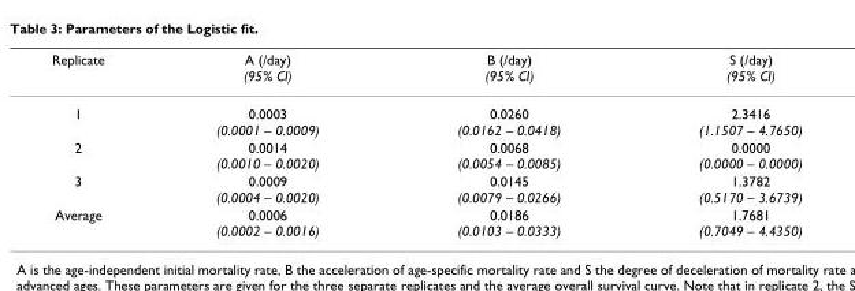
<table><thead><tr><td>Replicate</td><td>A (/day) (95% CI)</td><td>B (/day) (95% CI)</td><td>S (/day) (95% CI)</td></tr></thead><tbody><tr><td>1</td><td>0.0003 (0.0001 – 0.0009)</td><td>0.0260 (0.0162 – 0.0418)</td><td>2.3416 (1.1507 – 4.7650)</td></tr><tr><td>2</td><td>0.0014 (0.0010 – 0.0020)</td><td>0.0068 (0.0054 – 0.0085)</td><td>0.0000 (0.0000 – 0.0000)</td></tr><tr><td>3</td><td>0.0009 (0.0004 – 0.0020)</td><td>0.0145 (0.0079 – 0.0266)</td><td>1.3782 (0.5170 – 3.6739)</td></tr><tr><td>Average</td><td>0.0006 (0.0002 – 0.0016)</td><td>0.0186 (0.0103 – 0.0333)</td><td>1.7681 (0.7049 – 4.4350)</td></tr></tbody></table>